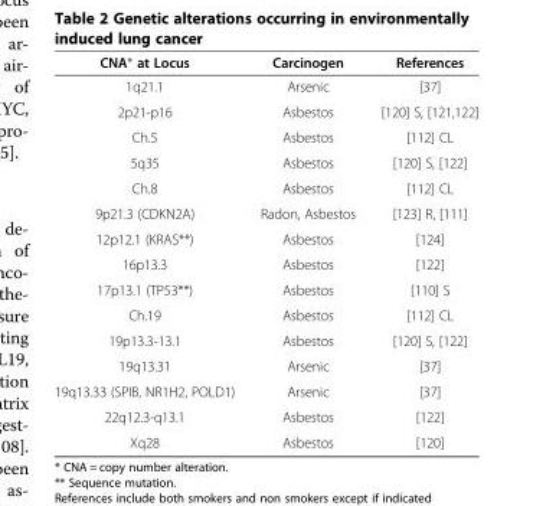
<table><thead><tr><td>CNA* at Locus</td><td>Carcinogen</td><td>References</td></tr></thead><tbody><tr><td>1q21.1</td><td>Arsenic</td><td>[37]</td></tr><tr><td>2p21-p16</td><td>Asbestos</td><td>[120] S, [121,122]</td></tr><tr><td>Ch.5</td><td>Asbestos</td><td>[112] CL</td></tr><tr><td>5q35</td><td>Asbestos</td><td>[120] S, [122]</td></tr><tr><td>Ch.8</td><td>Asbestos</td><td>[112] CL</td></tr><tr><td>9p21.3 (CDKN2A)</td><td>Radon, Asbestos</td><td>[123] R, [111]</td></tr><tr><td>12p12.1 (KRAS**)</td><td>Asbestos</td><td>[124]</td></tr><tr><td>16p13.3</td><td>Asbestos</td><td>[122]</td></tr><tr><td>17p13.1 (TP53**)</td><td>Asbestos</td><td>[110] S</td></tr><tr><td>Ch.19</td><td>Asbestos</td><td>[112] CL</td></tr><tr><td>19p13.3-13.1</td><td>Asbestos</td><td>[120] S, [122]</td></tr><tr><td>19q13.31</td><td>Arsenic</td><td>[37]</td></tr><tr><td>19q13.33 (SPIB, NR1H2, POLD1)</td><td>Arsenic</td><td>[37]</td></tr><tr><td>22q12.3-q13.1</td><td>Asbestos</td><td>[122]</td></tr><tr><td>Xq28</td><td>Asbestos</td><td>[120]</td></tr></tbody></table>